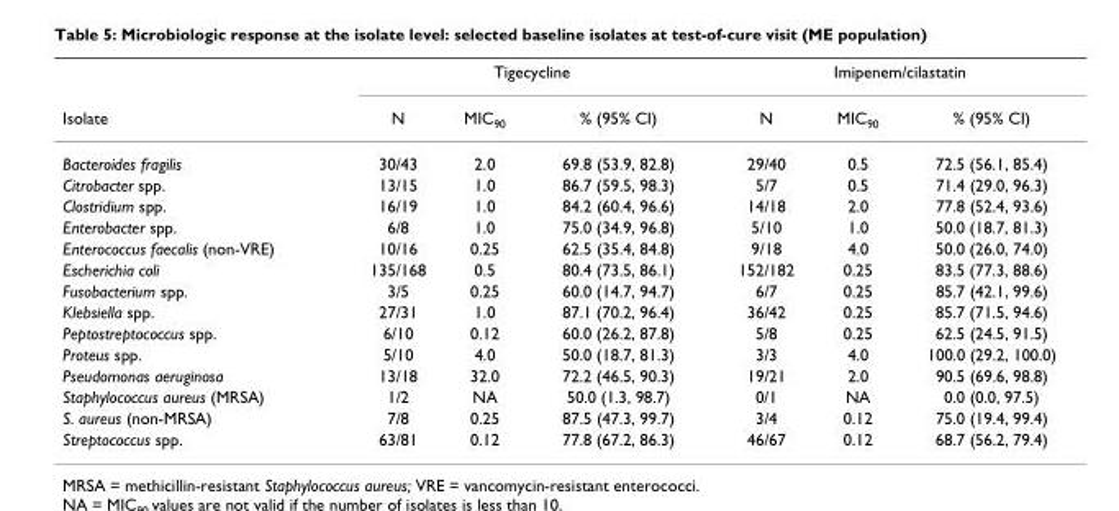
<table><thead><tr><td rowspan="2">Isolate</td><td colspan="3">Tigecycline</td><td colspan="3">Imipenem/cilastatin</td></tr><tr><td>N</td><td>MIC<sub>90</sub></td><td>% (95% CI)</td><td>N</td><td>MIC<sub>90</sub></td><td>% (95% CI)</td></tr></thead><tbody><tr><td>Bacteroides fragilis</td><td>30/43</td><td>2.0</td><td>69.8 (53.9, 82.8)</td><td>29/40</td><td>0.5</td><td>72.5 (56.1, 85.4)</td></tr><tr><td>Citrobacter spp.</td><td>13/15</td><td>1.0</td><td>86.7 (59.5, 98.3)</td><td>5/7</td><td>0.5</td><td>71.4 (29.0, 96.3)</td></tr><tr><td>Clostridium spp.</td><td>16/19</td><td>1.0</td><td>84.2 (60.4, 96.6)</td><td>14/18</td><td>2.0</td><td>77.8 (52.4, 93.6)</td></tr><tr><td>Enterobacter spp.</td><td>6/8</td><td>1.0</td><td>75.0 (34.9, 96.8)</td><td>5/10</td><td>1.0</td><td>50.0 (18.7, 81.3)</td></tr><tr><td>Enterococcus faecalis (non-VRE)</td><td>10/16</td><td>0.25</td><td>62.5 (35.4, 84.8)</td><td>9/18</td><td>4.0</td><td>50.0 (26.0, 74.0)</td></tr><tr><td>Escherichia coli</td><td>135/168</td><td>0.5</td><td>80.4 (73.5, 86.1)</td><td>152/182</td><td>0.25</td><td>83.5 (77.3, 88.6)</td></tr><tr><td>Fusobacterium spp.</td><td>3/5</td><td>0.25</td><td>60.0 (14.7, 94.7)</td><td>6/7</td><td>0.25</td><td>85.7 (42.1, 99.6)</td></tr><tr><td>Klebsiella spp.</td><td>27/31</td><td>1.0</td><td>87.1 (70.2, 96.4)</td><td>36/42</td><td>0.25</td><td>85.7 (71.5, 94.6)</td></tr><tr><td>Peptostreptococcus spp.</td><td>6/10</td><td>0.12</td><td>60.0 (26.2, 87.8)</td><td>5/8</td><td>0.25</td><td>62.5 (24.5, 91.5)</td></tr><tr><td>Proteus spp.</td><td>5/10</td><td>4.0</td><td>50.0 (18.7, 81.3)</td><td>3/3</td><td>4.0</td><td>100.0 (29.2, 100.0)</td></tr><tr><td>Pseudomonas aeruginosa</td><td>13/18</td><td>32.0</td><td>72.2 (46.5, 90.3)</td><td>19/21</td><td>2.0</td><td>90.5 (69.6, 98.8)</td></tr><tr><td>Staphylococcus aureus (MRSA)</td><td>1/2</td><td>NA</td><td>50.0 (1.3, 98.7)</td><td>0/1</td><td>NA</td><td>0.0 (0.0, 97.5)</td></tr><tr><td>S. aureus (non-MRSA)</td><td>7/8</td><td>0.25</td><td>87.5 (47.3, 99.7)</td><td>3/4</td><td>0.12</td><td>75.0 (19.4, 99.4)</td></tr><tr><td>Streptococcus spp.</td><td>63/81</td><td>0.12</td><td>77.8 (67.2, 86.3)</td><td>46/67</td><td>0.12</td><td>68.7 (56.2, 79.4)</td></tr></tbody></table>